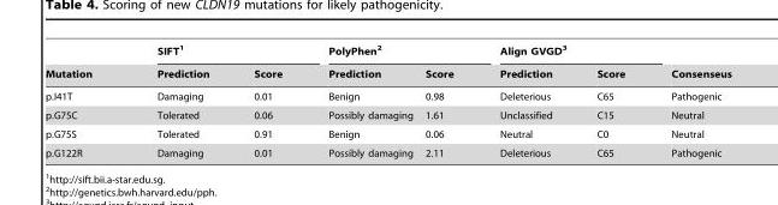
<table><thead><tr><td rowspan="2">Mutation</td><td colspan="2">SIFT<sup>1</sup></td><td colspan="2">PolyPhen<sup>2</sup></td><td colspan="2">Align GVGD<sup>3</sup></td><td rowspan="2">Consenseus</td></tr><tr><td>Prediction</td><td>Score</td><td>Prediction</td><td>Score</td><td>Prediction</td><td>Score</td></tr></thead><tbody><tr><td>p.I41T</td><td>Damaging</td><td>0.01</td><td>Benign</td><td>0.98</td><td>Deleterious</td><td>C65</td><td>Pathogenic</td></tr><tr><td>p.G75C</td><td>Tolerated</td><td>0.06</td><td>Possibly damaging</td><td>1.61</td><td>Unclassified</td><td>C15</td><td>Neutral</td></tr><tr><td>p.G75S</td><td>Tolerated</td><td>0.91</td><td>Benign</td><td>0.06</td><td>Neutral</td><td>C0</td><td>Neutral</td></tr><tr><td>p.G122R</td><td>Damaging</td><td>0.01</td><td>Possibly damaging</td><td>2.11</td><td>Deleterious</td><td>C65</td><td>Pathogenic</td></tr></tbody></table>